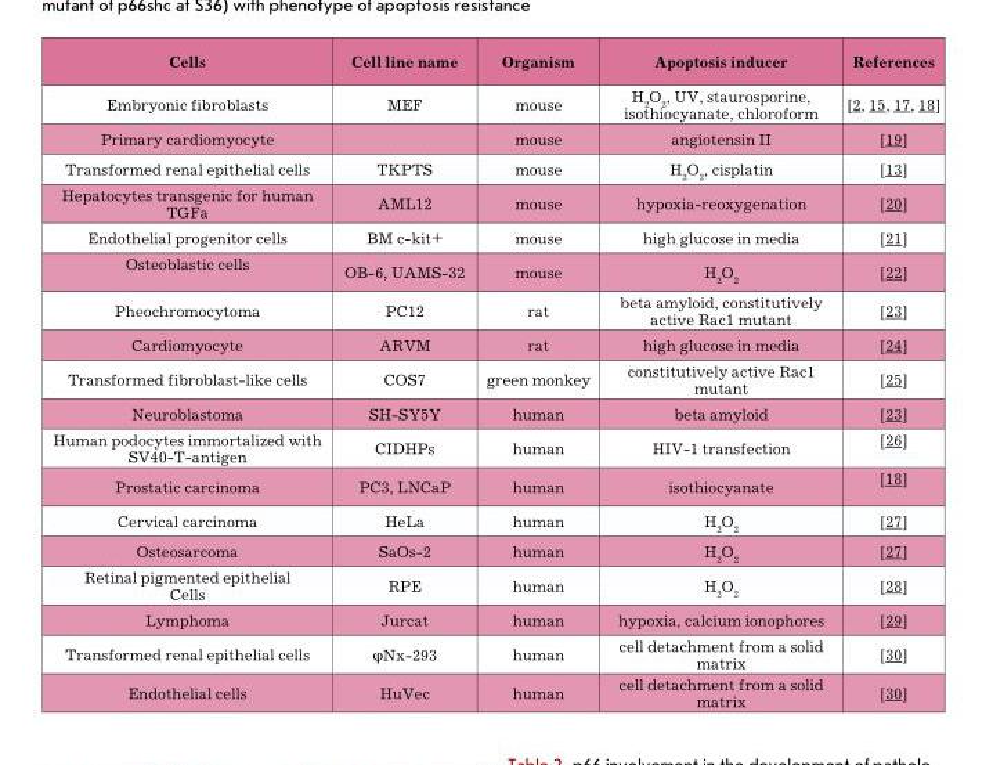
<table><thead><tr><td>Cells</td><td>Cell line name</td><td>Organism</td><td>Apoptosis inducer</td><td>References</td></tr></thead><tbody><tr><td>Embryonic fibroblasts</td><td>MEF</td><td>mouse</td><td>H<sub>2</sub>O<sub>2</sub>, UV, staurosporine, isothiocyanate, chloroform</td><td>[2, 15, 17, 18]</td></tr><tr><td>Primary cardiomyocyte</td><td></td><td>mouse</td><td>angiotensin II</td><td>[19]</td></tr><tr><td>Transformed renal epithelial cells</td><td>TKPTS</td><td>mouse</td><td>H<sub>2</sub>O<sub>2</sub>, cisplatin</td><td>[13]</td></tr><tr><td>Hepatocytes transgenic for human TGFa</td><td>AML12</td><td>mouse</td><td>hypoxia-reoxygenation</td><td>[20]</td></tr><tr><td>Endothelial progenitor cells</td><td>BM c-kit+</td><td>mouse</td><td>high glucose in media</td><td>[21]</td></tr><tr><td>Osteoblastic cells</td><td>OB-6, UAMS-32</td><td>mouse</td><td>H<sub>2</sub>O<sub>2</sub></td><td>[22]</td></tr><tr><td>Pheochromocytoma</td><td>PC12</td><td>rat</td><td>beta amyloid, constitutively active Rac1 mutant</td><td>[23]</td></tr><tr><td>Cardiomyocyte</td><td>ARVM</td><td>rat</td><td>high glucose in media</td><td>[24]</td></tr><tr><td>Transformed fibroblast-like cells</td><td>COS7</td><td>green monkey</td><td>constitutively active Rac1 mutant</td><td>[25]</td></tr><tr><td>Neuroblastoma</td><td>SH-SY5Y</td><td>human</td><td>beta amyloid</td><td>[23]</td></tr><tr><td>Human podocytes immortalized with SV40-T-antigen</td><td>CIDHPs</td><td>human</td><td>HIV-1 transfection</td><td>[26]</td></tr><tr><td>Prostatic carcinoma</td><td>PC3, LNCaP</td><td>human</td><td>isothiocyanate</td><td>[18]</td></tr><tr><td>Cervical carcinoma</td><td>HeLa</td><td>human</td><td>H<sub>2</sub>O<sub>2</sub></td><td>[27]</td></tr><tr><td>Osteosarcoma</td><td>SaOs-2</td><td>human</td><td>H<sub>2</sub>O<sub>2</sub></td><td>[27]</td></tr><tr><td>Retinal pigmented epithelial Cells</td><td>RPE</td><td>human</td><td>H<sub>2</sub>O<sub>2</sub></td><td>[28]</td></tr><tr><td>Lymphoma</td><td>Jurcat</td><td>human</td><td>hypoxia, calcium ionophores</td><td>[29]</td></tr><tr><td>Transformed renal epithelial cells</td><td>φNx-293</td><td>human</td><td>cell detachment from a solid matrix</td><td>[30]</td></tr><tr><td>Endothelial cells</td><td>HuVec</td><td>human</td><td>cell detachment from a solid matrix</td><td>[30]</td></tr></tbody></table>